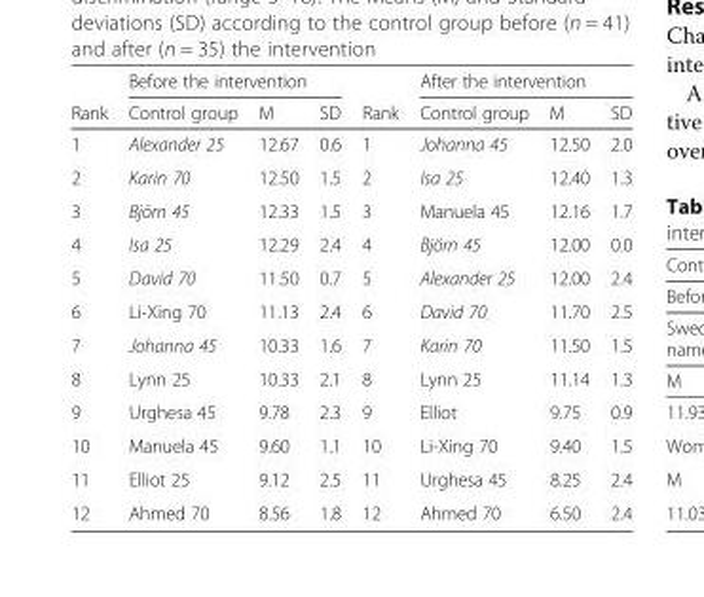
<table><thead><tr><td rowspan="2">Rank</td><td colspan="3">Before the intervention</td><td rowspan="2">Rank</td><td colspan="3">After the intervention</td></tr><tr><td>Control group</td><td>M</td><td>SD</td><td>Control group</td><td>M</td><td>SD</td></tr></thead><tbody><tr><td>1</td><td>Alexander 25</td><td>12.67</td><td>0.6</td><td>1</td><td>Johanna 45</td><td>12.50</td><td>2.0</td></tr><tr><td>2</td><td>Karin 70</td><td>12.50</td><td>1.5</td><td>2</td><td>Isa 25</td><td>12.40</td><td>1.3</td></tr><tr><td>3</td><td>Björn 45</td><td>12.33</td><td>1.5</td><td>3</td><td>Manuela 45</td><td>12.16</td><td>1.7</td></tr><tr><td>4</td><td>Isa 25</td><td>12.29</td><td>2.4</td><td>4</td><td>Björn 45</td><td>12.00</td><td>0.0</td></tr><tr><td>5</td><td>David 70</td><td>11.50</td><td>0.7</td><td>5</td><td>Alexander 25</td><td>12.00</td><td>2.4</td></tr><tr><td>6</td><td>Li-Xing 70</td><td>11.13</td><td>2.4</td><td>6</td><td>David 70</td><td>11.70</td><td>2.5</td></tr><tr><td>7</td><td>Johanna 45</td><td>10.33</td><td>1.6</td><td>7</td><td>Karin 70</td><td>11.50</td><td>1.5</td></tr><tr><td>8</td><td>Lynn 25</td><td>10.33</td><td>2.1</td><td>8</td><td>Lynn 25</td><td>11.14</td><td>1.3</td></tr><tr><td>9</td><td>Urghesa 45</td><td>9.78</td><td>2.3</td><td>9</td><td>Elliot</td><td>9.75</td><td>0.9</td></tr><tr><td>10</td><td>Manuela 45</td><td>9.60</td><td>1.1</td><td>10</td><td>Li-Xing 70</td><td>9.40</td><td>1.5</td></tr><tr><td>11</td><td>Elliot 25</td><td>9.12</td><td>2.5</td><td>11</td><td>Urghesa 45</td><td>8.25</td><td>2.4</td></tr><tr><td>12</td><td>Ahmed 70</td><td>8.56</td><td>1.8</td><td>12</td><td>Ahmed 70</td><td>6.50</td><td>2.4</td></tr></tbody></table>